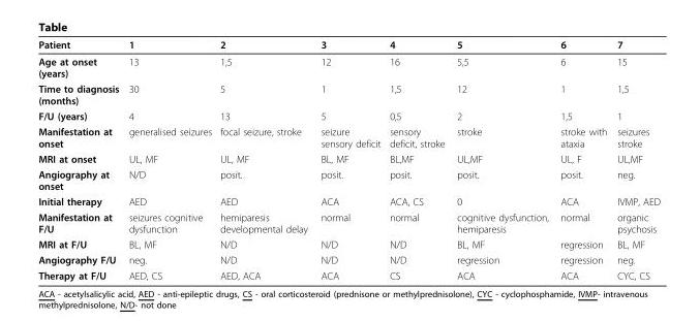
<table><thead><tr><td>Patient</td><td>1</td><td>2</td><td>3</td><td>4</td><td>5</td><td>6</td><td>7</td></tr></thead><tbody><tr><td>Age at onset (years)</td><td>13</td><td>1,5</td><td>12</td><td>16</td><td>5,5</td><td>6</td><td>15</td></tr><tr><td>Time to diagnosis (months)</td><td>30</td><td>5</td><td>1</td><td>1,5</td><td>12</td><td>1</td><td>1,5</td></tr><tr><td>F/U (years)</td><td>4</td><td>13</td><td>5</td><td>0,5</td><td>2</td><td>1,5</td><td>1</td></tr><tr><td>Manifestation at onset</td><td>generalised seizures</td><td>focal seizure, stroke</td><td>seizure sensory deficit</td><td>sensory deficit, stroke</td><td>stroke</td><td>stroke with ataxia</td><td>seizures stroke</td></tr><tr><td>MRI at onset</td><td>UL, MF</td><td>UL, MF</td><td>BL, MF</td><td>BL,MF</td><td>UL,MF</td><td>UL, F</td><td>UL,MF</td></tr><tr><td>Angiography at onset</td><td>N/D</td><td>posit.</td><td>posit.</td><td>posit.</td><td>posit.</td><td>posit.</td><td>neg.</td></tr><tr><td>Initial therapy</td><td>AED</td><td>AED</td><td>ACA</td><td>ACA, CS</td><td>0</td><td>ACA</td><td>IVMP, AED</td></tr><tr><td>Manifestation at F/U</td><td>seizures cognitive dysfunction</td><td>hemiparesis developmental delay</td><td>normal</td><td>normal</td><td>cognitive dysfunction, hemiparesis</td><td>normal</td><td>organic psychosis</td></tr><tr><td>MRI at F/U</td><td>BL, MF</td><td>N/D</td><td>N/D</td><td>N/D</td><td>BL, MF</td><td>regression</td><td>BL, MF</td></tr><tr><td>Angiography F/U</td><td>neg.</td><td>N/D</td><td>N/D</td><td>N/D</td><td>regression</td><td>regression</td><td>neg.</td></tr><tr><td>Therapy at F/U</td><td>AED, CS</td><td>AED, ACA</td><td>ACA</td><td>CS</td><td>ACA</td><td>ACA</td><td>CYC, CS</td></tr></tbody></table>